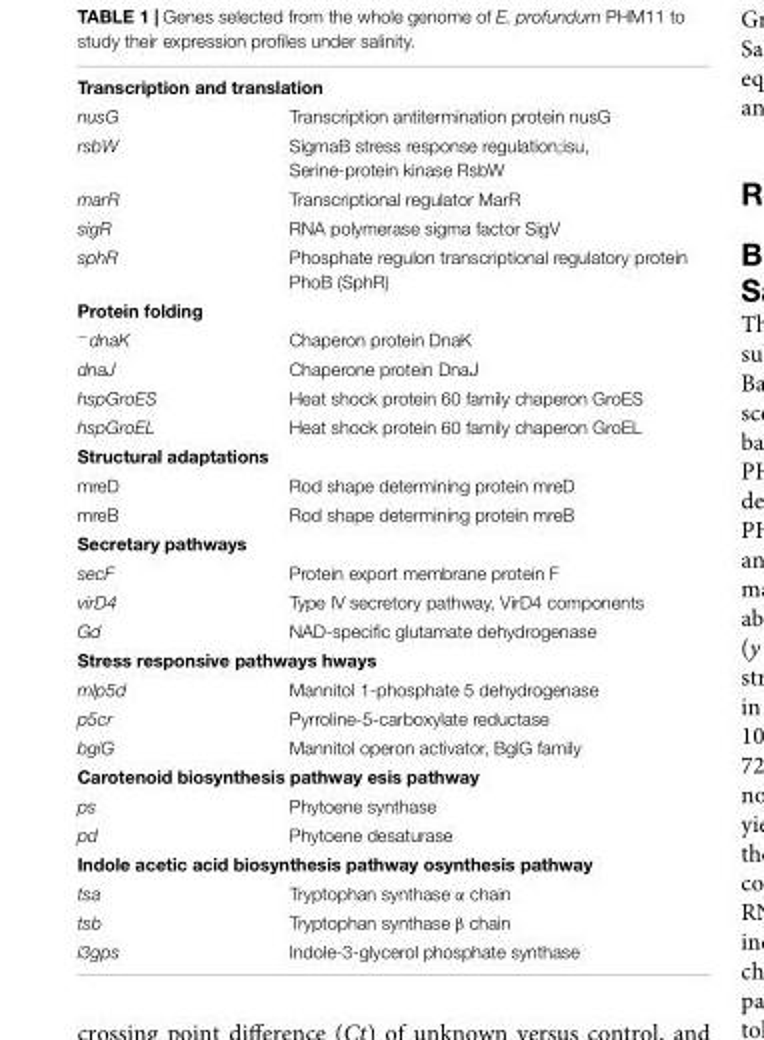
<table><tbody><tr><td colspan="2">Transcription and translation</td></tr><tr><td>nusG</td><td>Transcription antitermination protein nusG</td></tr><tr><td>rsbW</td><td>SigmaB stress response regulation;isu, Serine-protein kinase RsbW</td></tr><tr><td>marR</td><td>Transcriptional regulator MarR</td></tr><tr><td>sigR</td><td>RNA polymerase sigma factor SigV</td></tr><tr><td>sphR</td><td>Phosphate regulon transcriptional regulatory protein PhoB (SphR)</td></tr><tr><td colspan="2">Protein folding</td></tr><tr><td><sup>−</sup>dnaK</td><td>Chaperon protein DnaK</td></tr><tr><td>dnaJ</td><td>Chaperone protein DnaJ</td></tr><tr><td>hspGroES</td><td>Heat shock protein 60 family chaperon GroES</td></tr><tr><td>hspGroEL</td><td>Heat shock protein 60 family chaperon GroEL</td></tr><tr><td colspan="2">Structural adaptations</td></tr><tr><td>mreD</td><td>Rod shape determining protein mreD</td></tr><tr><td>mreB</td><td>Rod shape determining protein mreB</td></tr><tr><td colspan="2">Secretary pathways</td></tr><tr><td>secF</td><td>Protein export membrane protein F</td></tr><tr><td>virD4</td><td>Type IV secretory pathway, VirD4 components</td></tr><tr><td>Gd</td><td>NAD-specific glutamate dehydrogenase</td></tr><tr><td colspan="2">Stress responsive pathways hways</td></tr><tr><td>mlp5d</td><td>Mannitol 1-phosphate 5 dehydrogenase</td></tr><tr><td>p5cr</td><td>Pyrroline-5-carboxylate reductase</td></tr><tr><td>bgiG</td><td>Mannitol operon activator, BglG family</td></tr><tr><td colspan="2">Carotenoid biosynthesis pathway esis pathway</td></tr><tr><td>ps</td><td>Phytoene synthase</td></tr><tr><td>pd</td><td>Phytoene desaturase</td></tr><tr><td colspan="2">Indole acetic acid biosynthesis pathway osynthesis pathway</td></tr><tr><td>tsa</td><td>Tryptophan synthase α chain</td></tr><tr><td>tsb</td><td>Tryptophan synthase β chain</td></tr><tr><td>i3gps</td><td>Indole-3-glycerol phosphate synthase</td></tr></tbody></table>